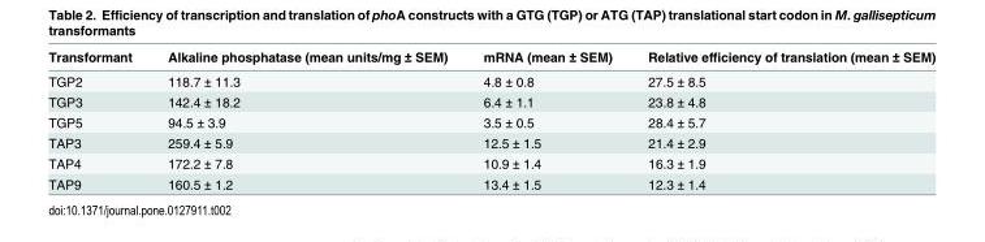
<table><thead><tr><td>Transformant</td><td>Alkaline phosphatase (mean units/mg ± SEM)</td><td>mRNA (mean ± SEM)</td><td>Relative efficiency of translation (mean ± SEM)</td></tr></thead><tbody><tr><td>TGP2</td><td>118.7 ± 11.3</td><td>4.8 ± 0.8</td><td>27.5 ± 8.5</td></tr><tr><td>TGP3</td><td>142.4 ± 18.2</td><td>6.4 ± 1.1</td><td>23.8 ± 4.8</td></tr><tr><td>TGP5</td><td>94.5 ± 3.9</td><td>3.5 ± 0.5</td><td>28.4 ± 5.7</td></tr><tr><td>TAP3</td><td>259.4 ± 5.9</td><td>12.5 ± 1.5</td><td>21.4 ± 2.9</td></tr><tr><td>TAP4</td><td>172.2 ± 7.8</td><td>10.9 ± 1.4</td><td>16.3 ± 1.9</td></tr><tr><td>TAP9</td><td>160.5 ± 1.2</td><td>13.4 ± 1.5</td><td>12.3 ± 1.4</td></tr></tbody></table>